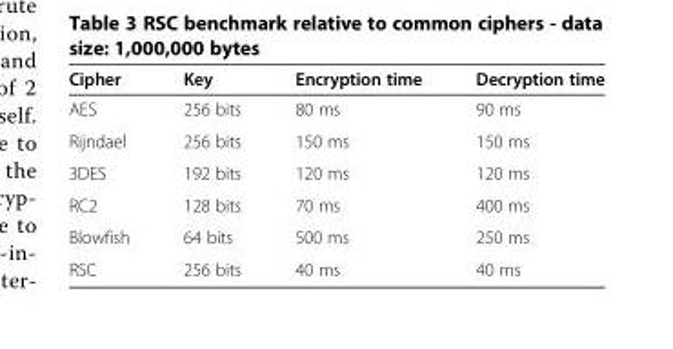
<table><thead><tr><td>Cipher</td><td>Key</td><td>Encryption time</td><td>Decryption time</td></tr></thead><tbody><tr><td>AES</td><td>256 bits</td><td>80 ms</td><td>90 ms</td></tr><tr><td>Rijndael</td><td>256 bits</td><td>150 ms</td><td>150 ms</td></tr><tr><td>3DES</td><td>192 bits</td><td>120 ms</td><td>120 ms</td></tr><tr><td>RC2</td><td>128 bits</td><td>70 ms</td><td>400 ms</td></tr><tr><td>Blowfish</td><td>64 bits</td><td>500 ms</td><td>250 ms</td></tr><tr><td>RSC</td><td>256 bits</td><td>40 ms</td><td>40 ms</td></tr></tbody></table>